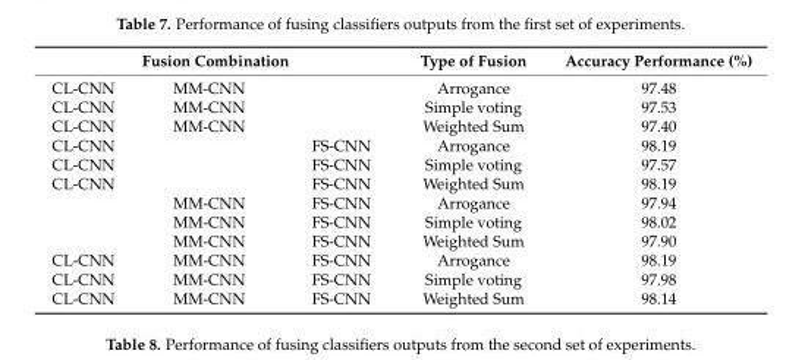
<table><thead><tr><td colspan="3">Fusion Combination</td><td rowspan="2">Type of Fusion Arrogance</td><td rowspan="2">Accuracy Performance (%) 97.48</td></tr><tr><td>CL-CNN</td><td>MM-CNN</td><td></td></tr></thead><tbody><tr><td>CL-CNN</td><td>MM-CNN</td><td></td><td>Simple voting</td><td>97.53</td></tr><tr><td>CL-CNN</td><td>MM-CNN</td><td></td><td>Weighted Sum</td><td>97.40</td></tr><tr><td>CL-CNN</td><td></td><td>FS-CNN</td><td>Arrogance</td><td>98.19</td></tr><tr><td>CL-CNN</td><td></td><td>FS-CNN</td><td>Simple voting</td><td>97.57</td></tr><tr><td rowspan="4">CL-CNN</td><td></td><td>FS-CNN</td><td>Weighted Sum</td><td>98.19</td></tr><tr><td>MM-CNN</td><td>FS-CNN</td><td>Arrogance</td><td>97.94</td></tr><tr><td>MM-CNN</td><td>FS-CNN</td><td>Simple voting</td><td>98.02</td></tr><tr><td>MM-CNN</td><td>FS-CNN</td><td>Weighted Sum</td><td>97.90</td></tr><tr><td>CL-CNN</td><td>MM-CNN</td><td>FS-CNN</td><td>Arrogance</td><td>98.19</td></tr><tr><td>CL-CNN</td><td>MM-CNN</td><td>FS-CNN</td><td>Simple voting</td><td>97.98</td></tr><tr><td>CL-CNN</td><td>MM-CNN</td><td>FS-CNN</td><td>Weighted Sum</td><td>98.14</td></tr></tbody></table>